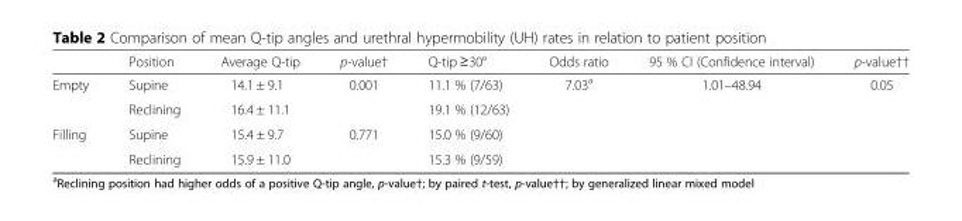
<table><thead><tr><td></td><td>Position</td><td>Average Q-tip</td><td>p-value†</td><td>Q-tip ≥30°</td><td>Odds ratio</td><td>95 % CI (Confidence interval)</td><td>p-value††</td></tr></thead><tbody><tr><td rowspan="2">Empty</td><td>Supine</td><td>14.1 ± 9.1</td><td>0.001</td><td>11.1 % (7/63)</td><td rowspan="4">7.03<sup>a</sup></td><td rowspan="4">1.01–48.94</td><td rowspan="4">0.05</td></tr><tr><td>Reclining</td><td>16.4 ± 11.1</td><td></td><td>19.1 % (12/63)</td></tr><tr><td rowspan="2">Filling</td><td>Supine</td><td>15.4 ± 9.7</td><td>0.771</td><td>15.0 % (9/60)</td></tr><tr><td>Reclining</td><td>15.9 ± 11.0</td><td></td><td>15.3 % (9/59)</td></tr></tbody></table>